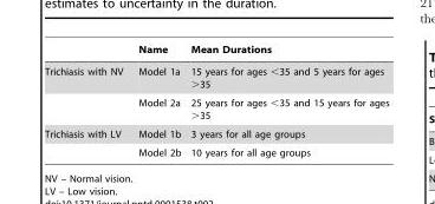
<table><thead><tr><td></td><td>Name</td><td>Mean Durations</td></tr></thead><tbody><tr><td rowspan="2">Trichiasis with NV</td><td>Model 1a</td><td>15 years for ages &lt;35 and 5 years for ages &gt;35</td></tr><tr><td>Model 2a</td><td>25 years for ages &lt;35 and 15 years for ages &gt;35</td></tr><tr><td rowspan="2">Trichiasis with LV</td><td>Model 1b</td><td>3 years for all age groups</td></tr><tr><td>Model 2b</td><td>10 years for all age groups</td></tr></tbody></table>